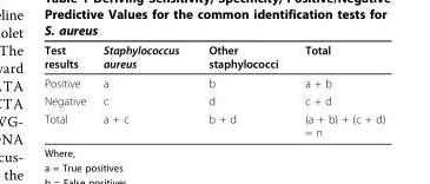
<table><thead><tr><td>Test results</td><td>Staphylococcus aureus</td><td>Other staphylococci</td><td>Total</td></tr></thead><tbody><tr><td>Positive</td><td>a</td><td>b</td><td>a + b</td></tr><tr><td>Negative</td><td>c</td><td>d</td><td>c + d</td></tr><tr><td>Total</td><td>a + c</td><td>b + d</td><td>(a + b) + (c + d) = n</td></tr></tbody></table>